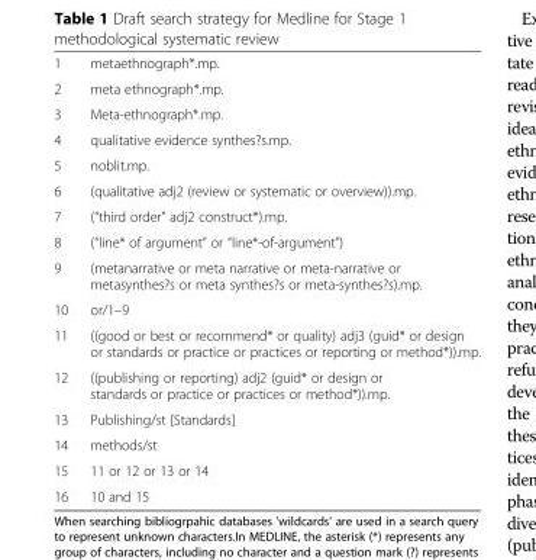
<table><tbody><tr><td>1</td><td>metaethnograph*.mp.</td></tr><tr><td>2</td><td>meta ethnograph*.mp.</td></tr><tr><td>3</td><td>Meta-ethnograph*.mp.</td></tr><tr><td>4</td><td>qualitative evidence synthes?s.mp.</td></tr><tr><td>5</td><td>noblit.mp.</td></tr><tr><td>6</td><td>(qualitative adj2 (review or systematic or overview)).mp.</td></tr><tr><td>7</td><td>(“third order” adj2 construct*).mp.</td></tr><tr><td>8</td><td>(“line* of argument” or “line*-of-argument”)</td></tr><tr><td>9</td><td>(metanarrative or meta narrative or meta-narrative or metasynthes?s or meta synthes?s or meta-synthes?s).mp.</td></tr><tr><td>10</td><td>or/1–9</td></tr><tr><td>11</td><td>((good or best or recommend* or quality) adj3 (guid* or design or standards or practice or practices or reporting or method*)).mp.</td></tr><tr><td>12</td><td>((publishing or reporting) adj2 (guid* or design or standards or practice or practices or method*)).mp.</td></tr><tr><td>13</td><td>Publishing/st [Standards]</td></tr><tr><td>14</td><td>methods/st</td></tr><tr><td>15</td><td>11 or 12 or 13 or 14</td></tr><tr><td>16</td><td>10 and 15</td></tr></tbody></table>